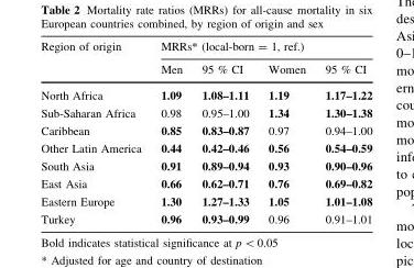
<table><thead><tr><td rowspan="2">Region of origin</td><td colspan="4">MRRs* (local-born = 1, ref.)</td></tr><tr><td>Men</td><td>95 % CI</td><td>Women</td><td>95 % CI</td></tr></thead><tbody><tr><td>North Africa</td><td>1.09</td><td>1.08–1.11</td><td>1.19</td><td>1.17–1.22</td></tr><tr><td>Sub-Saharan Africa</td><td>0.98</td><td>0.95–1.00</td><td>1.34</td><td>1.30–1.38</td></tr><tr><td>Caribbean</td><td>0.85</td><td>0.83–0.87</td><td>0.97</td><td>0.94–1.00</td></tr><tr><td>Other Latin America</td><td>0.44</td><td>0.42–0.46</td><td>0.56</td><td>0.54–0.59</td></tr><tr><td>South Asia</td><td>0.91</td><td>0.89–0.94</td><td>0.93</td><td>0.90–0.96</td></tr><tr><td>East Asia</td><td>0.66</td><td>0.62–0.71</td><td>0.76</td><td>0.69–0.82</td></tr><tr><td>Eastern Europe</td><td>1.30</td><td>1.27–1.33</td><td>1.05</td><td>1.01–1.08</td></tr><tr><td>Turkey</td><td>0.96</td><td>0.93–0.99</td><td>0.96</td><td>0.91–1.01</td></tr></tbody></table>